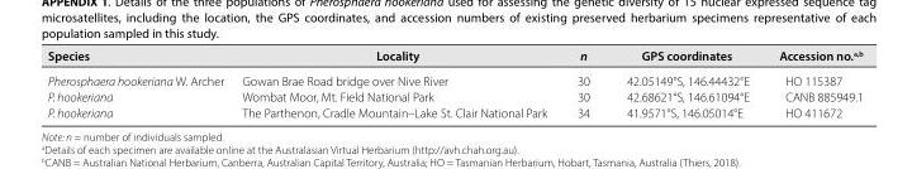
<table><thead><tr><td>Species</td><td>Locality</td><td>n</td><td>GPS coordinates</td><td>Accession no.<sup>a,</sup>b</td></tr></thead><tbody><tr><td>Pherosphaera hookeriana W. Archer</td><td>Gowan Brae Road bridge over Nive River</td><td>30</td><td>42.05149°S, 146.44432°E</td><td>HO 115387</td></tr><tr><td>P. hookeriana</td><td>Wombat Moor, Mt. Field National Park</td><td>30</td><td>42.68621°S, 146.61094°E</td><td>CANB 885949.1</td></tr><tr><td>P. hookeriana</td><td>The Parthenon, Cradle Mountain–Lake St. Clair National Park</td><td>34</td><td>41.9571°S, 146.05014°E</td><td>HO 411672</td></tr></tbody></table>